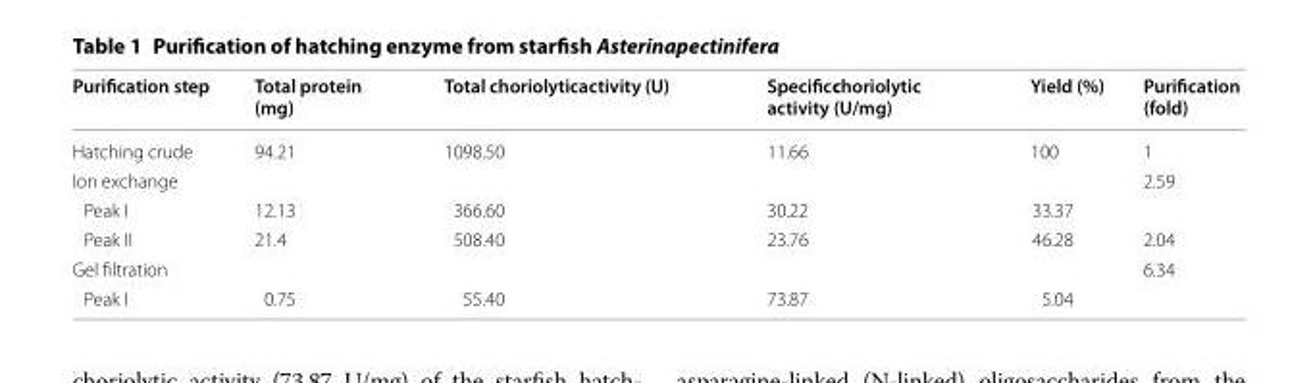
<table><thead><tr><td>Purification step</td><td>Total protein (mg)</td><td>Total choriolyticactivity (U)</td><td>Specificchoriolytic activity (U/mg)</td><td>Yield (%)</td><td>Purification (fold)</td></tr></thead><tbody><tr><td>Hatching crude</td><td>94.21</td><td>1098.50</td><td>11.66</td><td>100</td><td>1</td></tr><tr><td>Ion exchange</td><td></td><td></td><td></td><td></td><td>2.59</td></tr><tr><td>Peak I</td><td>12.13</td><td>366.60</td><td>30.22</td><td>33.37</td><td></td></tr><tr><td>Peak II</td><td>21.4</td><td>508.40</td><td>23.76</td><td>46.28</td><td>2.04</td></tr><tr><td>Gel filtration</td><td></td><td></td><td></td><td></td><td>6.34</td></tr><tr><td>Peak I</td><td>0.75</td><td>55.40</td><td>73.87</td><td>5.04</td><td></td></tr></tbody></table>